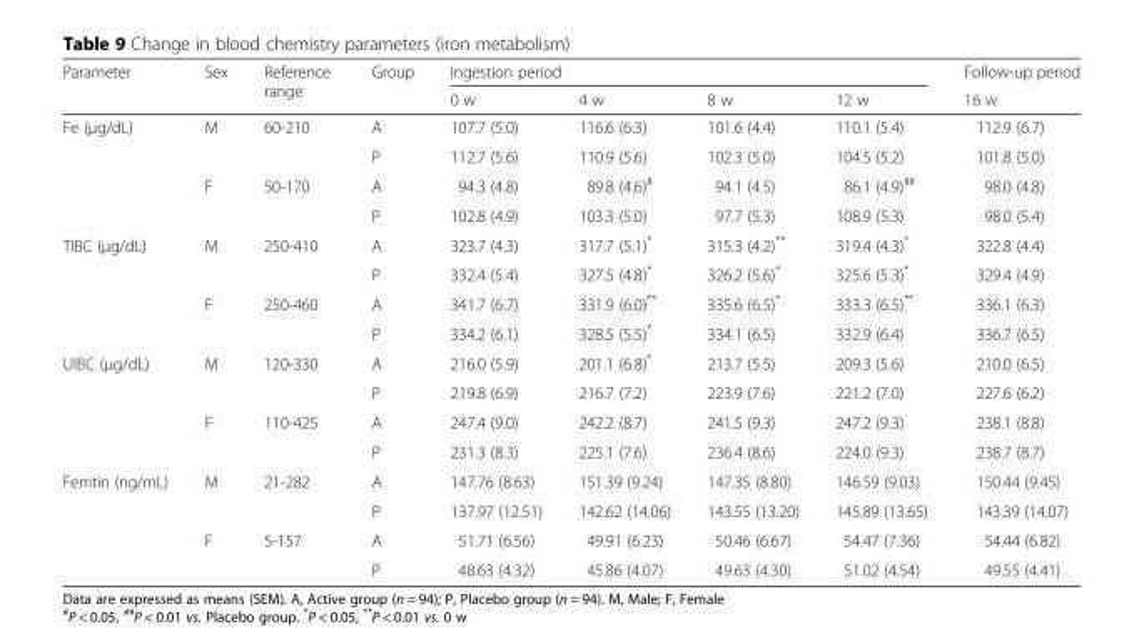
<table><thead><tr><td rowspan="2">Parameter</td><td rowspan="2">Sex</td><td rowspan="2">Reference range</td><td rowspan="2">Group</td><td colspan="4">Ingestion period</td><td rowspan="2">Follow-up period 16 w</td></tr><tr><td>0 w</td><td>4 w</td><td>8 w</td><td>12 w</td></tr></thead><tbody><tr><td rowspan="4">Fe (μg/dL)</td><td rowspan="2">M</td><td rowspan="2">60-210</td><td>A</td><td>107.7 (5.0)</td><td>116.6 (6.3)</td><td>101.6 (4.4)</td><td>110.1 (5.4)</td><td>112.9 (6.7)</td></tr><tr><td>P</td><td>112.7 (5.6)</td><td>110.9 (5.6)</td><td>102.3 (5.0)</td><td>104.5 (5.2)</td><td>101.8 (5.0)</td></tr><tr><td rowspan="2">F</td><td rowspan="2">50-170</td><td>A</td><td>94.3 (4.8)</td><td>89.8 (4.6)<sup>#</sup></td><td>94.1 (4.5)</td><td>86.1 (4.9)<sup>##</sup></td><td>98.0 (4.8)</td></tr><tr><td>P</td><td>102.8 (4.9)</td><td>103.3 (5.0)</td><td>97.7 (5.3)</td><td>108.9 (5.3)</td><td>98.0 (5.4)</td></tr><tr><td rowspan="4">TIBC (μg/dL)</td><td rowspan="2">M</td><td rowspan="2">250-410</td><td>A</td><td>323.7 (4.3)</td><td>317.7 (5.1)*</td><td>315.3 (4.2)**</td><td>319.4 (4.3)*</td><td>322.8 (4.4)</td></tr><tr><td>P</td><td>332.4 (5.4)</td><td>327.5 (4.8)*</td><td>326.2 (5.6)*</td><td>325.6 (5.3)*</td><td>329.4 (4.9)</td></tr><tr><td rowspan="2">F</td><td rowspan="2">250-460</td><td>A</td><td>341.7 (6.7)</td><td>331.9 (6.0)**</td><td>335.6 (6.5)*</td><td>333.3 (6.5)**</td><td>336.1 (6.3)</td></tr><tr><td>P</td><td>334.2 (6.1)</td><td>328.5 (5.5)*</td><td>334.1 (6.5)</td><td>332.9 (6.4)</td><td>336.7 (6.5)</td></tr><tr><td rowspan="4">UIBC (μg/dL)</td><td rowspan="2">M</td><td rowspan="2">120-330</td><td>A</td><td>216.0 (5.9)</td><td>201.1 (6.8)*</td><td>213.7 (5.5)</td><td>209.3 (5.6)</td><td>210.0 (6.5)</td></tr><tr><td>P</td><td>219.8 (6.9)</td><td>216.7 (7.2)</td><td>223.9 (7.6)</td><td>221.2 (7.0)</td><td>227.6 (6.2)</td></tr><tr><td rowspan="2">F</td><td rowspan="2">110-425</td><td>A</td><td>247.4 (9.0)</td><td>242.2 (8.7)</td><td>241.5 (9.3)</td><td>247.2 (9.3)</td><td>238.1 (8.8)</td></tr><tr><td>P</td><td>231.3 (8.3)</td><td>225.1 (7.6)</td><td>236.4 (8.6)</td><td>224.0 (9.3)</td><td>238.7 (8.7)</td></tr><tr><td rowspan="4">Ferritin (ng/mL)</td><td rowspan="2">M</td><td rowspan="2">21-282</td><td>A</td><td>147.76 (8.63)</td><td>151.39 (9.24)</td><td>147.35 (8.80)</td><td>146.59 (9.03)</td><td>150.44 (9.45)</td></tr><tr><td>P</td><td>137.97 (12.51)</td><td>142.62 (14.06)</td><td>143.55 (13.20)</td><td>145.89 (13.65)</td><td>143.39 (14.07)</td></tr><tr><td rowspan="2">F</td><td rowspan="2">5-157</td><td>A</td><td>51.71 (6.56)</td><td>49.91 (6.23)</td><td>50.46 (6.67)</td><td>54.47 (7.36)</td><td>54.44 (6.82)</td></tr><tr><td>P</td><td>48.63 (4.32)</td><td>45.86 (4.07)</td><td>49.63 (4.30)</td><td>51.02 (4.54)</td><td>49.55 (4.41)</td></tr></tbody></table>